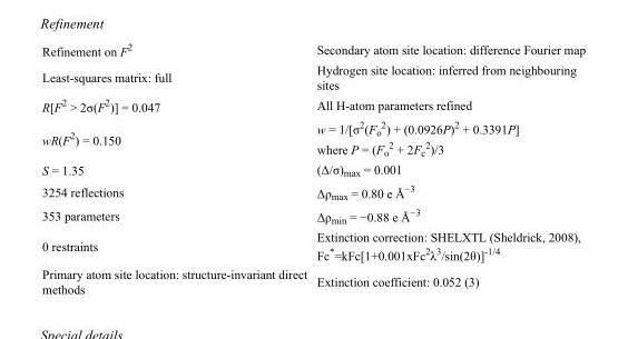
<table><tbody><tr><td>Refinement on F<sup>2</sup></td><td>Secondary atom site location: difference Fourier map</td></tr><tr><td>Least-squares matrix: full</td><td>Hydrogen site location: inferred from neighbouring sites</td></tr><tr><td>R[F<sup>2</sup> &gt; 2σ(F<sup>2</sup>)] = 0.047</td><td>All H-atom parameters refined</td></tr><tr><td>wR(F<sup>2</sup>) = 0.150</td><td>w = 1/[σ<sup>2</sup>(F<sub>o</sub> <sup>2</sup>) + (0.0926P)<sup>2</sup> + 0.3391P] where P = (F<sub>o</sub> <sup>2</sup> + 2F<sub>c</sub> <sup>2</sup>)/3</td></tr><tr><td>S = 1.35</td><td>(Δ/σ)<sub>max</sub> = 0.001</td></tr><tr><td>3254 reflections</td><td>Δρ<sub>max</sub> = 0.80 e Å<sup>−3</sup></td></tr><tr><td>353 parameters</td><td>Δρ<sub>min</sub> = −0.88 e Å<sup>−3</sup></td></tr><tr><td>0 restraints</td><td>Extinction correction: SHELXTL (Sheldrick, 2008), Fc*=kFc[1+0.001xFc<sup>2</sup>λ<sup>3</sup>/sin(2θ)]<sup>-1/4</sup></td></tr><tr><td>Primary atom site location: structure-invariant direct methods</td><td>Extinction coefficient: 0.052 (3)</td></tr></tbody></table>